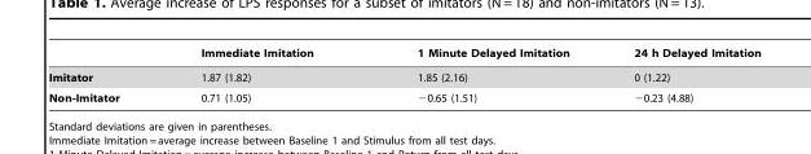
<table><thead><tr><td></td><td>Immediate Imitation</td><td>1 Minute Delayed Imitation</td><td>24 h Delayed Imitation</td></tr></thead><tbody><tr><td>Imitator</td><td>1.87 (1.82)</td><td>1.85 (2.16)</td><td>0 (1.22)</td></tr><tr><td>Non-Imitator</td><td>0.71 (1.05)</td><td>−0.65 (1.51)</td><td>−0.23 (4.88)</td></tr></tbody></table>